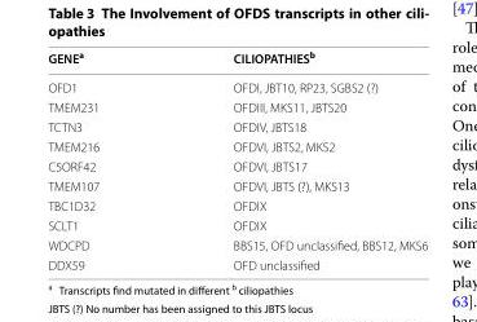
<table><thead><tr><td>GENE<sup>a</sup></td><td>CILIOPATHIES<sup>b</sup></td></tr></thead><tbody><tr><td>OFD1</td><td>OFDI, JBT10, RP23, SGBS2 (?)</td></tr><tr><td>TMEM231</td><td>OFDIII, MKS11, JBTS20</td></tr><tr><td>TCTN3</td><td>OFDIV, JBTS18</td></tr><tr><td>TMEM216</td><td>OFDVI, JBTS2, MKS2</td></tr><tr><td>C5ORF42</td><td>OFDVI, JBTS17</td></tr><tr><td>TMEM107</td><td>OFDVI, JBTS (?), MKS13</td></tr><tr><td>TBC1D32</td><td>OFDIX</td></tr><tr><td>SCLT1</td><td>OFDIX</td></tr><tr><td>WDCPD</td><td>BBS15, OFD unclassified, BBS12, MKS6</td></tr><tr><td>DDX59</td><td>OFD unclassified</td></tr></tbody></table>